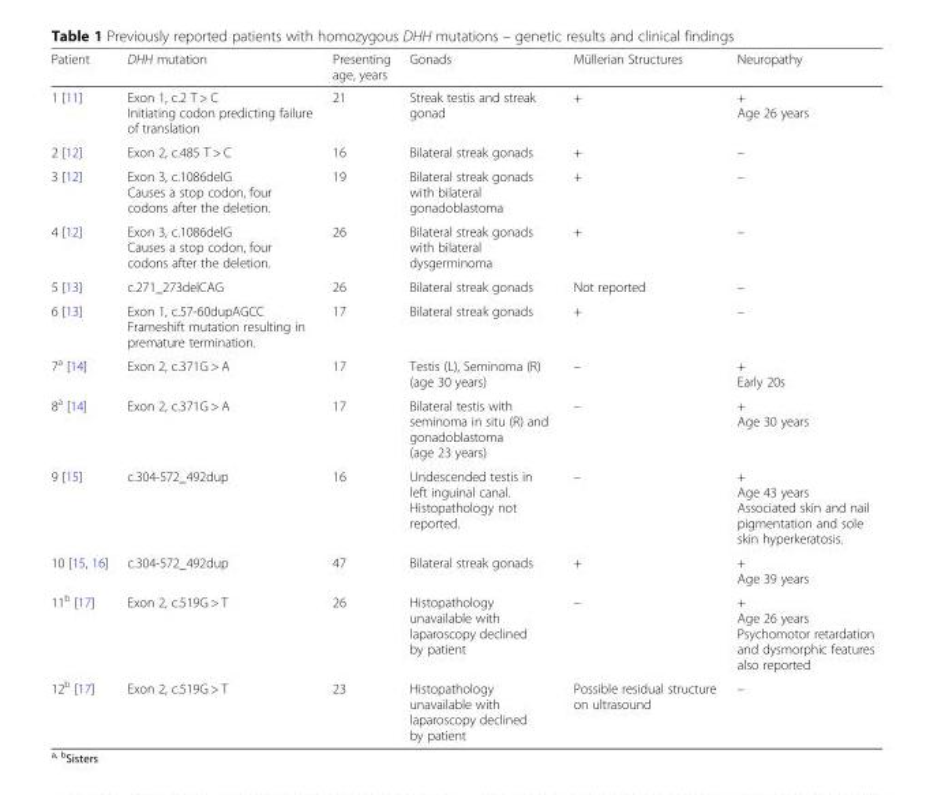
<table><thead><tr><td>Patient</td><td>DHH mutation</td><td>Presenting age, years</td><td>Gonads</td><td>Müllerian Structures</td><td>Neuropathy</td></tr></thead><tbody><tr><td>1 [11]</td><td>Exon 1, c.2 T &gt; C Initiating codon predicting failure of translation</td><td>21</td><td>Streak testis and streak gonad</td><td>+</td><td>+ Age 26 years</td></tr><tr><td>2 [12]</td><td>Exon 2, c.485 T &gt; C</td><td>16</td><td>Bilateral streak gonads</td><td>+</td><td>–</td></tr><tr><td>3 [12]</td><td>Exon 3, c.1086delG Causes a stop codon, four codons after the deletion.</td><td>19</td><td>Bilateral streak gonads with bilateral gonadoblastoma</td><td>+</td><td>–</td></tr><tr><td>4 [12]</td><td>Exon 3, c.1086delG Causes a stop codon, four codons after the deletion.</td><td>26</td><td>Bilateral streak gonads with bilateral dysgerminoma</td><td>+</td><td>–</td></tr><tr><td>5 [13]</td><td>c.271_273delCAG</td><td>26</td><td>Bilateral streak gonads</td><td>Not reported</td><td>–</td></tr><tr><td>6 [13]</td><td>Exon 1, c.57-60dupAGCC Frameshift mutation resulting in premature termination.</td><td>17</td><td>Bilateral streak gonads</td><td>+</td><td>–</td></tr><tr><td>7<sup>a</sup> [14]</td><td>Exon 2, c.371G &gt; A</td><td>17</td><td>Testis (L), Seminoma (R) (age 30 years)</td><td>–</td><td>+ Early 20s</td></tr><tr><td>8<sup>a</sup> [14]</td><td>Exon 2, c.371G &gt; A</td><td>17</td><td>Bilateral testis with seminoma in situ (R) and gonadoblastoma (age 23 years)</td><td>–</td><td>+ Age 30 years</td></tr><tr><td>9 [15]</td><td>c.304-572_492dup</td><td>16</td><td>Undescended testis in left inguinal canal. Histopathology not reported.</td><td>–</td><td>+ Age 43 years Associated skin and nail pigmentation and sole skin hyperkeratosis.</td></tr><tr><td>10 [15, 16]</td><td>c.304-572_492dup</td><td>47</td><td>Bilateral streak gonads</td><td>+</td><td>+ Age 39 years</td></tr><tr><td>11<sup>b</sup> [17]</td><td>Exon 2, c.519G &gt; T</td><td>26</td><td>Histopathology unavailable with laparoscopy declined by patient</td><td>–</td><td>+ Age 26 years Psychomotor retardation and dysmorphic features also reported</td></tr><tr><td>12<sup>b</sup> [17]</td><td>Exon 2, c.519G &gt; T</td><td>23</td><td>Histopathology unavailable with laparoscopy declined by patient</td><td>Possible residual structure on ultrasound</td><td>–</td></tr></tbody></table>